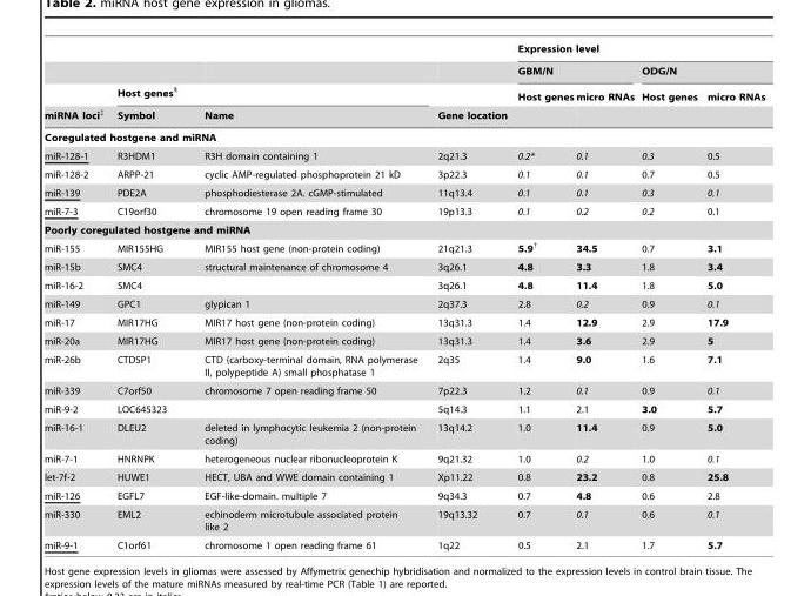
<table><thead><tr><td rowspan="4">miRNA loci‡</td><td rowspan="2"></td><td rowspan="2"></td><td rowspan="4">Gene location</td><td colspan="4">Expression level</td></tr><tr><td colspan="2">GBM/N</td><td colspan="2">ODG/N</td></tr><tr><td colspan="2">Host genes§</td><td rowspan="2">Host genes</td><td rowspan="2">micro RNAs</td><td rowspan="2">Host genes</td><td rowspan="2">micro RNAs</td></tr><tr><td>Symbol</td><td>Name</td></tr></thead><tbody><tr><td colspan="8">Coregulated hostgene and miRNA</td></tr><tr><td>miR-128-1</td><td>R3HDM1</td><td>R3H domain containing 1</td><td>2q21.3</td><td>0.2*</td><td>0.1</td><td>0.3</td><td>0.5</td></tr><tr><td>miR-128-2</td><td>ARPP-21</td><td>cyclic AMP-regulated phosphoprotein 21 kD</td><td>3p22.3</td><td>0.1</td><td>0.1</td><td>0.7</td><td>0.5</td></tr><tr><td>miR-139</td><td>PDE2A</td><td>phosphodiesterase 2A. cGMP-stimulated</td><td>11q13.4</td><td>0.1</td><td>0.1</td><td>0.3</td><td>0.1</td></tr><tr><td>miR-7-3</td><td>C19orf30</td><td>chromosome 19 open reading frame 30</td><td>19p13.3</td><td>0.1</td><td>0.2</td><td>0.2</td><td>0.1</td></tr><tr><td colspan="8">Poorly coregulated hostgene and miRNA</td></tr><tr><td>miR-155</td><td>MIR155HG</td><td>MIR155 host gene (non-protein coding)</td><td>21q21.3</td><td>5.9†</td><td>34.5</td><td>0.7</td><td>3.1</td></tr><tr><td>miR-15b</td><td>SMC4</td><td>structural maintenance of chromosome 4</td><td>3q26.1</td><td>4.8</td><td>3.3</td><td>1.8</td><td>3.4</td></tr><tr><td>miR-16-2</td><td>SMC4</td><td></td><td>3q26.1</td><td>4.8</td><td>11.4</td><td>1.8</td><td>5.0</td></tr><tr><td>miR-149</td><td>GPC1</td><td>glypican 1</td><td>2q37.3</td><td>2.8</td><td>0.2</td><td>0.9</td><td>0.1</td></tr><tr><td>miR-17</td><td>MIR17HG</td><td>MIR17 host gene (non-protein coding)</td><td>13q31.3</td><td>1.4</td><td>12.9</td><td>2.9</td><td>17.9</td></tr><tr><td>miR-20a</td><td>MIR17HG</td><td>MIR17 host gene (non-protein coding)</td><td>13q31.3</td><td>1.4</td><td>3.6</td><td>2.9</td><td>5</td></tr><tr><td>miR-26b</td><td>CTDSP1</td><td>CTD (carboxy-terminal domain, RNA polymerase II, polypeptide A) small phosphatase 1</td><td>2q35</td><td>1.4</td><td>9.0</td><td>1.6</td><td>7.1</td></tr><tr><td>miR-339</td><td>C7orf50</td><td>chromosome 7 open reading frame 50</td><td>7p22.3</td><td>1.2</td><td>0.1</td><td>0.9</td><td>0.1</td></tr><tr><td>miR-9-2</td><td>LOC645323</td><td></td><td>5q14.3</td><td>1.1</td><td>2.1</td><td>3.0</td><td>5.7</td></tr><tr><td>miR-16-1</td><td>DLEU2</td><td>deleted in lymphocytic leukemia 2 (non-protein coding)</td><td>13q14.2</td><td>1.0</td><td>11.4</td><td>0.9</td><td>5.0</td></tr><tr><td>miR-7-1</td><td>HNRNPK</td><td>heterogeneous nuclear ribonucleoprotein K</td><td>9q21.32</td><td>1.0</td><td>0.2</td><td>1.0</td><td>0.1</td></tr><tr><td>let-7f-2</td><td>HUWE1</td><td>HECT, UBA and WWE domain containing 1</td><td>Xp11.22</td><td>0.8</td><td>23.2</td><td>0.8</td><td>25.8</td></tr><tr><td>miR-126</td><td>EGFL7</td><td>EGF-like-domain. multiple 7</td><td>9q34.3</td><td>0.7</td><td>4.8</td><td>0.6</td><td>2.8</td></tr><tr><td>miR-330</td><td>EML2</td><td>echinoderm microtubule associated protein like 2</td><td>19q13.32</td><td>0.7</td><td>0.1</td><td>0.6</td><td>0.1</td></tr><tr><td>miR-9-1</td><td>C1orf61</td><td>chromosome 1 open reading frame 61</td><td>1q22</td><td>0.5</td><td>2.1</td><td>1.7</td><td>5.7</td></tr></tbody></table>